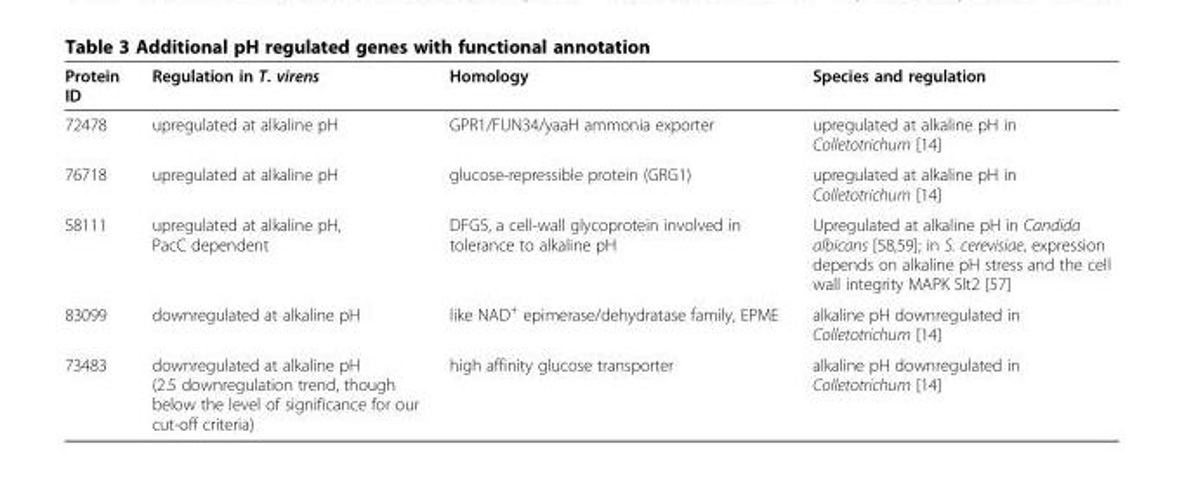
<table><thead><tr><td>Protein ID</td><td>Regulation in T. virens</td><td>Homology</td><td>Species and regulation</td></tr></thead><tbody><tr><td>72478</td><td>upregulated at alkaline pH</td><td>GPR1/FUN34/yaaH ammonia exporter</td><td>upregulated at alkaline pH in Colletotrichum [14]</td></tr><tr><td>76718</td><td>upregulated at alkaline pH</td><td>glucose-repressible protein (GRG1)</td><td>upregulated at alkaline pH in Colletotrichum [14]</td></tr><tr><td>58111</td><td>upregulated at alkaline pH, PacC dependent</td><td>DFG5, a cell-wall glycoprotein involved in tolerance to alkaline pH</td><td>Upregulated at alkaline pH in Candida albicans [58,59]; in S. cerevisiae, expression depends on alkaline pH stress and the cell wall integrity MAPK Slt2 [57]</td></tr><tr><td>83099</td><td>downregulated at alkaline pH</td><td>like NAD<sup>+</sup> epimerase/dehydratase family, EPME</td><td>alkaline pH downregulated in Colletotrichum [14]</td></tr><tr><td>73483</td><td>downregulated at alkaline pH (2.5 downregulation trend, though below the level of significance for our cut-off criteria)</td><td>high affinity glucose transporter</td><td>alkaline pH downregulated in Colletotrichum [14]</td></tr></tbody></table>